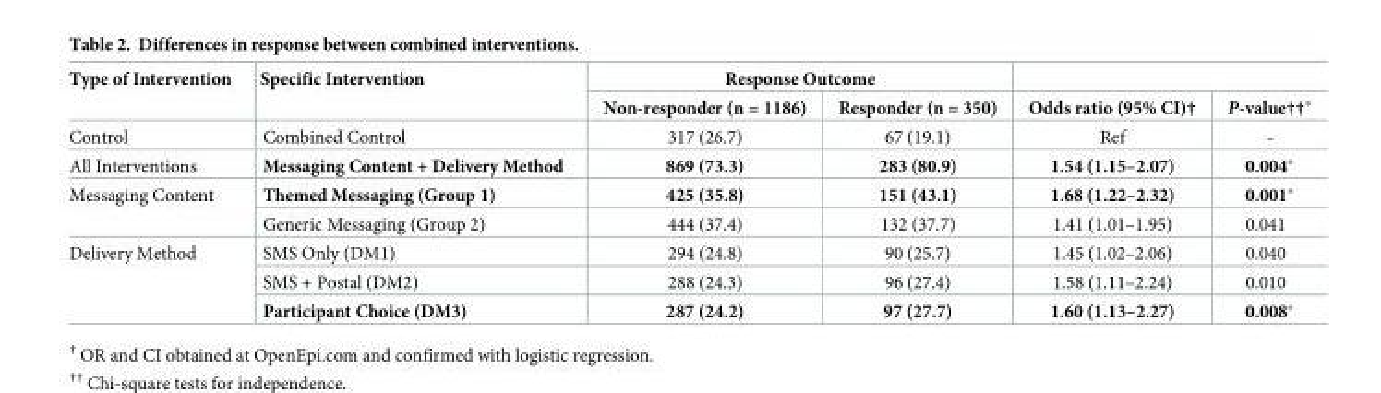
<table><thead><tr><td rowspan="2">Type of Intervention</td><td rowspan="2">Specific Intervention</td><td colspan="2">Response Outcome</td><td rowspan="2">Odds ratio (95% CI)†</td><td rowspan="2">P-value††*</td></tr><tr><td>Non-responder (n = 1186)</td><td>Responder (n = 350)</td></tr></thead><tbody><tr><td>Control</td><td>Combined Control</td><td>317 (26.7)</td><td>67 (19.1)</td><td>Ref</td><td>-</td></tr><tr><td>All Interventions</td><td>Messaging Content + Delivery Method</td><td>869 (73.3)</td><td>283 (80.9)</td><td>1.54 (1.15–2.07)</td><td>0.004*</td></tr><tr><td rowspan="2">Messaging Content</td><td>Themed Messaging (Group 1)</td><td>425 (35.8)</td><td>151 (43.1)</td><td>1.68 (1.22–2.32)</td><td>0.001*</td></tr><tr><td>Generic Messaging (Group 2)</td><td>444 (37.4)</td><td>132 (37.7)</td><td>1.41 (1.01–1.95)</td><td>0.041</td></tr><tr><td rowspan="3">Delivery Method</td><td>SMS Only (DM1)</td><td>294 (24.8)</td><td>90 (25.7)</td><td>1.45 (1.02–2.06)</td><td>0.040</td></tr><tr><td>SMS + Postal (DM2)</td><td>288 (24.3)</td><td>96 (27.4)</td><td>1.58 (1.11–2.24)</td><td>0.010</td></tr><tr><td>Participant Choice (DM3)</td><td>287 (24.2)</td><td>97 (27.7)</td><td>1.60 (1.13–2.27)</td><td>0.008*</td></tr></tbody></table>